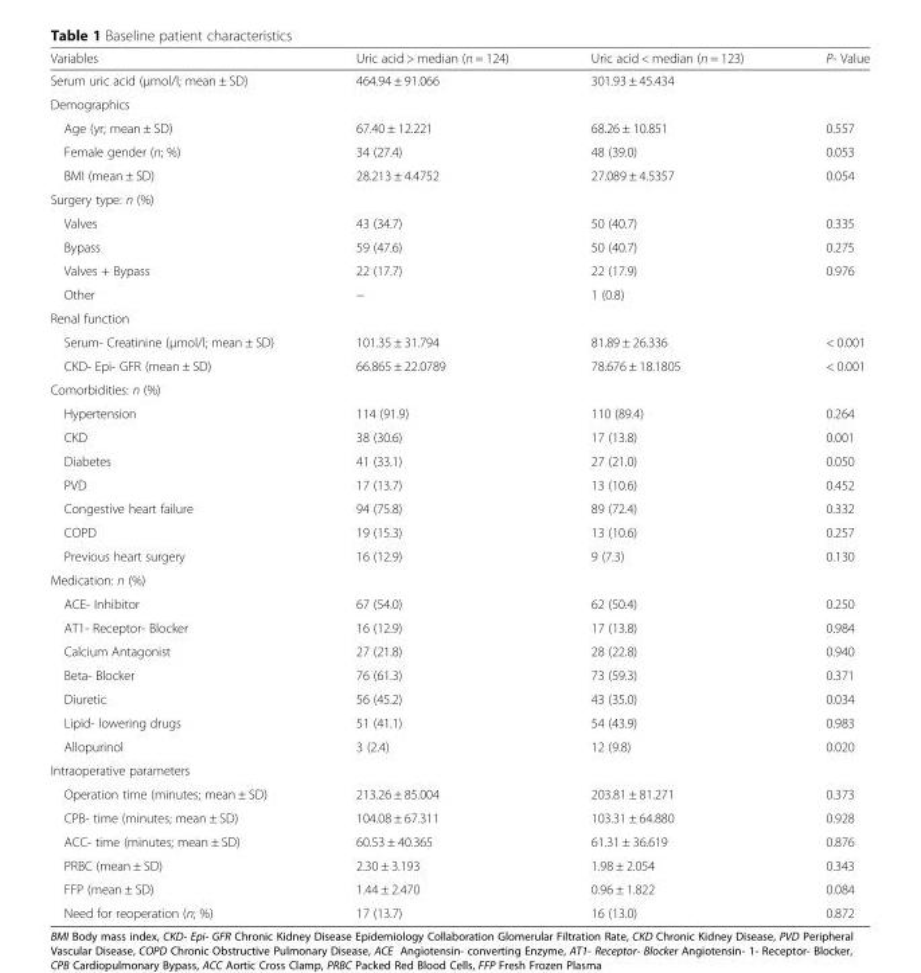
<table><thead><tr><td>Variables</td><td>Uric acid &gt; median (n = 124)</td><td>Uric acid &lt; median (n = 123)</td><td>P- Value</td></tr></thead><tbody><tr><td>Serum uric acid (μmol/l; mean ± SD)</td><td>464.94 ± 91.066</td><td>301.93 ± 45.434</td><td></td></tr><tr><td colspan="4">Demographics</td></tr><tr><td>Age (yr; mean ± SD)</td><td>67.40 ± 12.221</td><td>68.26 ± 10.851</td><td>0.557</td></tr><tr><td>Female gender (n; %)</td><td>34 (27.4)</td><td>48 (39.0)</td><td>0.053</td></tr><tr><td>BMI (mean ± SD)</td><td>28.213 ± 4.4752</td><td>27.089 ± 4.5357</td><td>0.054</td></tr><tr><td colspan="4">Surgery type: n (%)</td></tr><tr><td>Valves</td><td>43 (34.7)</td><td>50 (40.7)</td><td>0.335</td></tr><tr><td>Bypass</td><td>59 (47.6)</td><td>50 (40.7)</td><td>0.275</td></tr><tr><td>Valves + Bypass</td><td>22 (17.7)</td><td>22 (17.9)</td><td>0.976</td></tr><tr><td>Other</td><td>−</td><td>1 (0.8)</td><td></td></tr><tr><td colspan="4">Renal function</td></tr><tr><td>Serum- Creatinine (μmol/l; mean ± SD)</td><td>101.35 ± 31.794</td><td>81.89 ± 26.336</td><td>&lt; 0.001</td></tr><tr><td>CKD- Epi- GFR (mean ± SD)</td><td>66.865 ± 22.0789</td><td>78.676 ± 18.1805</td><td>&lt; 0.001</td></tr><tr><td colspan="4">Comorbidities: n (%)</td></tr><tr><td>Hypertension</td><td>114 (91.9)</td><td>110 (89.4)</td><td>0.264</td></tr><tr><td>CKD</td><td>38 (30.6)</td><td>17 (13.8)</td><td>0.001</td></tr><tr><td>Diabetes</td><td>41 (33.1)</td><td>27 (21.0)</td><td>0.050</td></tr><tr><td>PVD</td><td>17 (13.7)</td><td>13 (10.6)</td><td>0.452</td></tr><tr><td>Congestive heart failure</td><td>94 (75.8)</td><td>89 (72.4)</td><td>0.332</td></tr><tr><td>COPD</td><td>19 (15.3)</td><td>13 (10.6)</td><td>0.257</td></tr><tr><td>Previous heart surgery</td><td>16 (12.9)</td><td>9 (7.3)</td><td>0.130</td></tr><tr><td colspan="4">Medication: n (%)</td></tr><tr><td>ACE- Inhibitor</td><td>67 (54.0)</td><td>62 (50.4)</td><td>0.250</td></tr><tr><td>AT1- Receptor- Blocker</td><td>16 (12.9)</td><td>17 (13.8)</td><td>0.984</td></tr><tr><td>Calcium Antagonist</td><td>27 (21.8)</td><td>28 (22.8)</td><td>0.940</td></tr><tr><td>Βeta- Blocker</td><td>76 (61.3)</td><td>73 (59.3)</td><td>0.371</td></tr><tr><td>Diuretic</td><td>56 (45.2)</td><td>43 (35.0)</td><td>0.034</td></tr><tr><td>Lipid- lowering drugs</td><td>51 (41.1)</td><td>54 (43.9)</td><td>0.983</td></tr><tr><td>Allopurinol</td><td>3 (2.4)</td><td>12 (9.8)</td><td>0.020</td></tr><tr><td colspan="4">Intraoperative parameters</td></tr><tr><td>Operation time (minutes; mean ± SD)</td><td>213.26 ± 85.004</td><td>203.81 ± 81.271</td><td>0.373</td></tr><tr><td>CPB- time (minutes; mean ± SD)</td><td>104.08 ± 67.311</td><td>103.31 ± 64.880</td><td>0.928</td></tr><tr><td>ACC- time (minutes; mean ± SD)</td><td>60.53 ± 40.365</td><td>61.31 ± 36.619</td><td>0.876</td></tr><tr><td>PRBC (mean ± SD)</td><td>2.30 ± 3.193</td><td>1.98 ± 2.054</td><td>0.343</td></tr><tr><td>FFP (mean ± SD)</td><td>1.44 ± 2.470</td><td>0.96 ± 1.822</td><td>0.084</td></tr><tr><td>Need for reoperation (n; %)</td><td>17 (13.7)</td><td>16 (13.0)</td><td>0.872</td></tr></tbody></table>